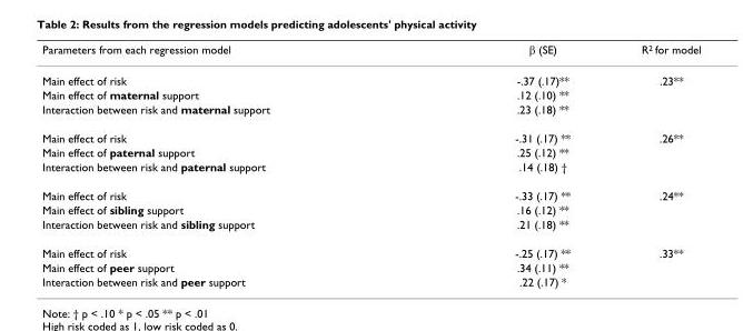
<table><thead><tr><td>Parameters from each regression model</td><td>β (SE)</td><td>R<sup>2</sup> for model</td></tr></thead><tbody><tr><td>Main effect of risk</td><td>-.37 (.17)**</td><td>.23**</td></tr><tr><td>Main effect of maternal support</td><td>.12 (.10) **</td><td></td></tr><tr><td>Interaction between risk and maternal support</td><td>.23 (.18) **</td><td></td></tr><tr><td>Main effect of risk</td><td>-.31 (.17) **</td><td>.26**</td></tr><tr><td>Main effect of paternal support</td><td>.25 (.12) **</td><td></td></tr><tr><td>Interaction between risk and paternal support</td><td>.14 (.18) †</td><td></td></tr><tr><td>Main effect of risk</td><td>-.33 (.17) **</td><td>.24**</td></tr><tr><td>Main effect of sibling support</td><td>.16 (.12) **</td><td></td></tr><tr><td>Interaction between risk and sibling support</td><td>.21 (.18) **</td><td></td></tr><tr><td>Main effect of risk</td><td>-.25 (.17) **</td><td>.33**</td></tr><tr><td>Main effect of peer support</td><td>.34 (.11) **</td><td></td></tr><tr><td>Interaction between risk and peer support</td><td>.22 (.17) *</td><td></td></tr></tbody></table>